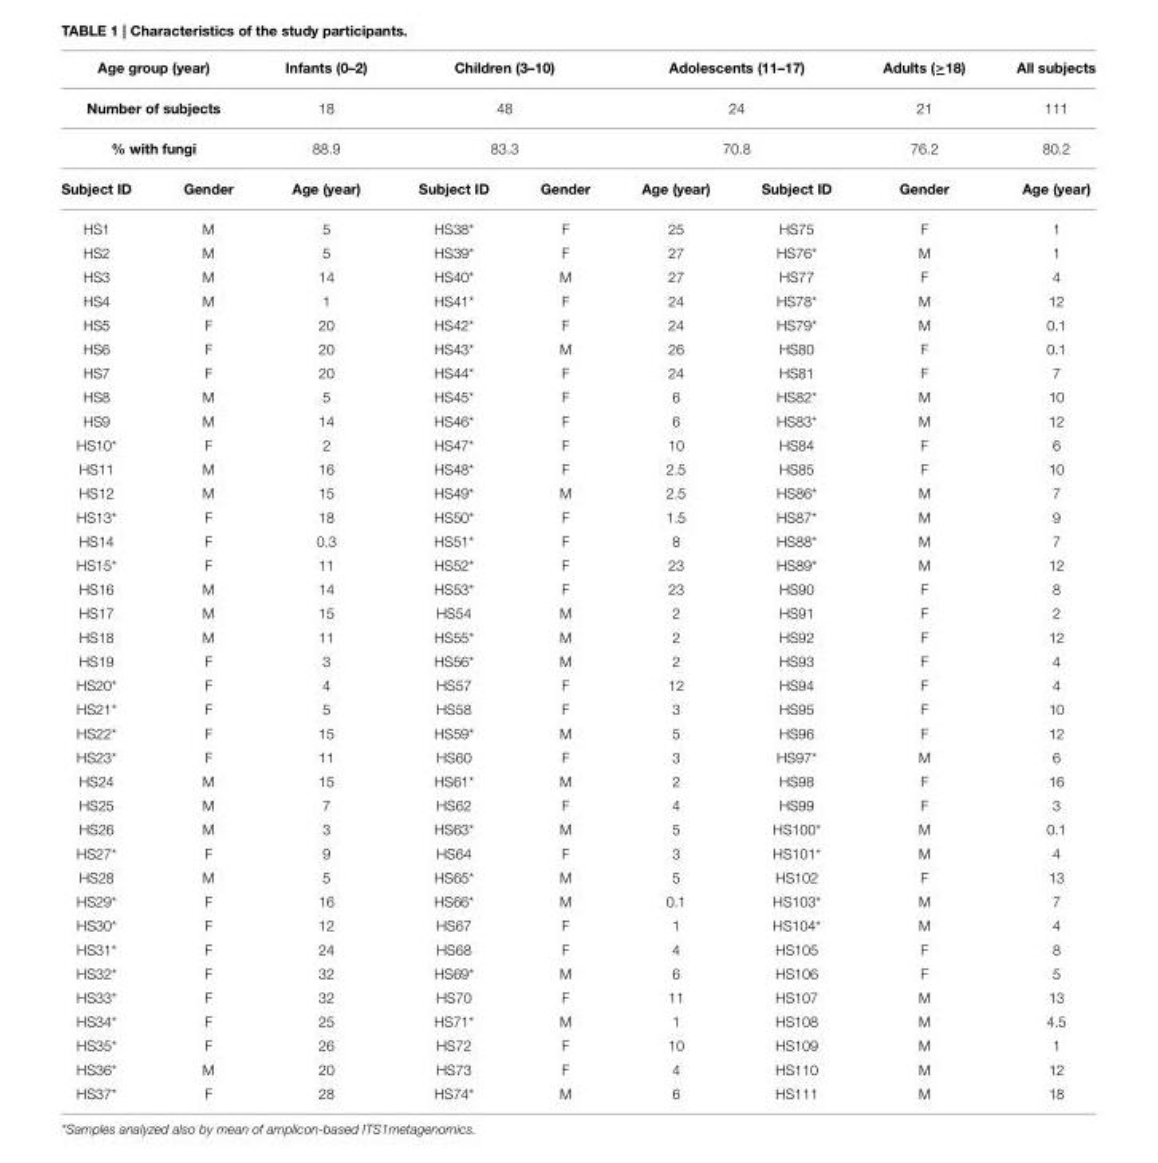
<table><thead><tr><td rowspan="3" colspan="2">Age group (year) Number of subjects % with fungi</td><td rowspan="4">Infants (0–2) 18 88.9 Age (year)</td><td rowspan="3" colspan="2">Children (3–10) 48 83.3</td><td rowspan="3" colspan="2">Adolescents (11–17) 24 70.8</td><td rowspan="4">Adults (≥18) 21 76.2 Gender</td><td rowspan="4">All subjects 111 80.2 Age (year)</td></tr><tr></tr><tr></tr><tr><td>Subject ID</td><td>Gender</td><td>Subject ID</td><td>Gender</td><td>Age (year)</td><td>Subject ID</td></tr></thead><tbody><tr><td>HS1</td><td>M</td><td>5</td><td>HS38*</td><td>F</td><td>25</td><td>HS75</td><td>F</td><td>1</td></tr><tr><td>HS2</td><td>M</td><td>5</td><td>HS39*</td><td>F</td><td>27</td><td>HS76*</td><td>M</td><td>1</td></tr><tr><td>HS3</td><td>M</td><td>14</td><td>HS40*</td><td>M</td><td>27</td><td>HS77</td><td>F</td><td>4</td></tr><tr><td>HS4</td><td>M</td><td>1</td><td>HS41*</td><td>F</td><td>24</td><td>HS78*</td><td>M</td><td>12</td></tr><tr><td>HS5</td><td>F</td><td>20</td><td>HS42*</td><td>F</td><td>24</td><td>HS79*</td><td>M</td><td>0.1</td></tr><tr><td>HS6</td><td>F</td><td>20</td><td>HS43*</td><td>M</td><td>26</td><td>HS80</td><td>F</td><td>0.1</td></tr><tr><td>HS7</td><td>F</td><td>20</td><td>HS44*</td><td>F</td><td>24</td><td>HS81</td><td>F</td><td>7</td></tr><tr><td>HS8</td><td>M</td><td>5</td><td>HS45*</td><td>F</td><td>6</td><td>HS82*</td><td>M</td><td>10</td></tr><tr><td>HS9</td><td>M</td><td>14</td><td>HS46*</td><td>F</td><td>6</td><td>HS83*</td><td>M</td><td>12</td></tr><tr><td>HS10*</td><td>F</td><td>2</td><td>HS47*</td><td>F</td><td>10</td><td>HS84</td><td>F</td><td>6</td></tr><tr><td>HS11</td><td>M</td><td>16</td><td>HS48*</td><td>F</td><td>2.5</td><td>HS85</td><td>F</td><td>10</td></tr><tr><td>HS12</td><td>M</td><td>15</td><td>HS49*</td><td>M</td><td>2.5</td><td>HS86*</td><td>M</td><td>7</td></tr><tr><td>HS13*</td><td>F</td><td>18</td><td>HS50*</td><td>F</td><td>1.5</td><td>HS87*</td><td>M</td><td>9</td></tr><tr><td>HS14</td><td>F</td><td>0.3</td><td>HS51*</td><td>F</td><td>8</td><td>HS88*</td><td>M</td><td>7</td></tr><tr><td>HS15*</td><td>F</td><td>11</td><td>HS52*</td><td>F</td><td>23</td><td>HS89*</td><td>M</td><td>12</td></tr><tr><td>HS16</td><td>M</td><td>14</td><td>HS53*</td><td>F</td><td>23</td><td>HS90</td><td>F</td><td>8</td></tr><tr><td>HS17</td><td>M</td><td>15</td><td>HS54</td><td>M</td><td>2</td><td>HS91</td><td>F</td><td>2</td></tr><tr><td>HS18</td><td>M</td><td>11</td><td>HS55*</td><td>M</td><td>2</td><td>HS92</td><td>F</td><td>12</td></tr><tr><td>HS19</td><td>F</td><td>3</td><td>HS56*</td><td>M</td><td>2</td><td>HS93</td><td>F</td><td>4</td></tr><tr><td>HS20*</td><td>F</td><td>4</td><td>HS57</td><td>F</td><td>12</td><td>HS94</td><td>F</td><td>4</td></tr><tr><td>HS21*</td><td>F</td><td>5</td><td>HS58</td><td>F</td><td>3</td><td>HS95</td><td>F</td><td>10</td></tr><tr><td>HS22*</td><td>F</td><td>15</td><td>HS59*</td><td>M</td><td>5</td><td>HS96</td><td>F</td><td>12</td></tr><tr><td>HS23*</td><td>F</td><td>11</td><td>HS60</td><td>F</td><td>3</td><td>HS97*</td><td>M</td><td>6</td></tr><tr><td>HS24</td><td>M</td><td>15</td><td>HS61*</td><td>M</td><td>2</td><td>HS98</td><td>F</td><td>16</td></tr><tr><td>HS25</td><td>M</td><td>7</td><td>HS62</td><td>F</td><td>4</td><td>HS99</td><td>F</td><td>3</td></tr><tr><td>HS26</td><td>M</td><td>3</td><td>HS63*</td><td>M</td><td>5</td><td>HS100*</td><td>M</td><td>0.1</td></tr><tr><td>HS27*</td><td>F</td><td>9</td><td>HS64</td><td>F</td><td>3</td><td>HS101*</td><td>M</td><td>4</td></tr><tr><td>HS28</td><td>M</td><td>5</td><td>HS65*</td><td>M</td><td>5</td><td>HS102</td><td>F</td><td>13</td></tr><tr><td>HS29*</td><td>F</td><td>16</td><td>HS66*</td><td>M</td><td>0.1</td><td>HS103*</td><td>M</td><td>7</td></tr><tr><td>HS30*</td><td>F</td><td>12</td><td>HS67</td><td>F</td><td>1</td><td>HS104*</td><td>M</td><td>4</td></tr><tr><td>HS31*</td><td>F</td><td>24</td><td>HS68</td><td>F</td><td>4</td><td>HS105</td><td>F</td><td>8</td></tr><tr><td>HS32*</td><td>F</td><td>32</td><td>HS69*</td><td>M</td><td>6</td><td>HS106</td><td>F</td><td>5</td></tr><tr><td>HS33*</td><td>F</td><td>32</td><td>HS70</td><td>F</td><td>11</td><td>HS107</td><td>M</td><td>13</td></tr><tr><td>HS34*</td><td>F</td><td>25</td><td>HS71*</td><td>M</td><td>1</td><td>HS108</td><td>M</td><td>4.5</td></tr><tr><td>HS35*</td><td>F</td><td>26</td><td>HS72</td><td>F</td><td>10</td><td>HS109</td><td>M</td><td>1</td></tr><tr><td>HS36*</td><td>M</td><td>20</td><td>HS73</td><td>F</td><td>4</td><td>HS110</td><td>M</td><td>12</td></tr><tr><td>HS37*</td><td>F</td><td>28</td><td>HS74*</td><td>M</td><td>6</td><td>HS111</td><td>M</td><td>18</td></tr></tbody></table>